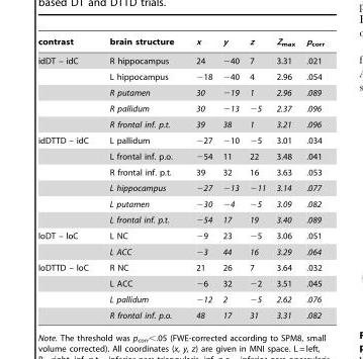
<table><thead><tr><td>contrast</td><td>brain structure</td><td>x</td><td>y</td><td>z</td><td>Z<sub>max</sub></td><td>p<sub>corr</sub></td></tr></thead><tbody><tr><td rowspan="5">idDT – idC</td><td>R hippocampus</td><td>24</td><td>−40</td><td>7</td><td>3.31</td><td>.021</td></tr><tr><td>L hippocampus</td><td>−18</td><td>−40</td><td>4</td><td>2.96</td><td>.054</td></tr><tr><td>R putamen</td><td>30</td><td>−19</td><td>1</td><td>2.96</td><td>.089</td></tr><tr><td>R pallidum</td><td>30</td><td>−13</td><td>−5</td><td>2.37</td><td>.096</td></tr><tr><td>R frontal inf. p.t.</td><td>39</td><td>38</td><td>1</td><td>3.21</td><td>.096</td></tr><tr><td rowspan="6">idDTTD – idC</td><td>L pallidum</td><td>−27</td><td>−10</td><td>−5</td><td>3.01</td><td>.034</td></tr><tr><td>L frontal inf. p.o.</td><td>−54</td><td>11</td><td>22</td><td>3.48</td><td>.041</td></tr><tr><td>R frontal inf. p.t.</td><td>39</td><td>32</td><td>16</td><td>3.63</td><td>.053</td></tr><tr><td>L hippocampus</td><td>−27</td><td>−13</td><td>−11</td><td>3.14</td><td>.077</td></tr><tr><td>L putamen</td><td>−30</td><td>−4</td><td>−5</td><td>3.09</td><td>.082</td></tr><tr><td>L frontal inf. p.t.</td><td>−54</td><td>17</td><td>19</td><td>3.40</td><td>.089</td></tr><tr><td rowspan="2">loDT – loC</td><td>L NC</td><td>−9</td><td>23</td><td>−5</td><td>3.06</td><td>.051</td></tr><tr><td>L ACC</td><td>−3</td><td>44</td><td>16</td><td>3.29</td><td>.064</td></tr><tr><td rowspan="4">loDTTD – loC</td><td>R NC</td><td>21</td><td>26</td><td>7</td><td>3.64</td><td>.032</td></tr><tr><td>L ACC</td><td>−6</td><td>32</td><td>−2</td><td>3.51</td><td>.045</td></tr><tr><td>L pallidum</td><td>−12</td><td>2</td><td>−5</td><td>2.62</td><td>.076</td></tr><tr><td>R frontal inf. p.o.</td><td>48</td><td>17</td><td>31</td><td>3.31</td><td>.082</td></tr></tbody></table>